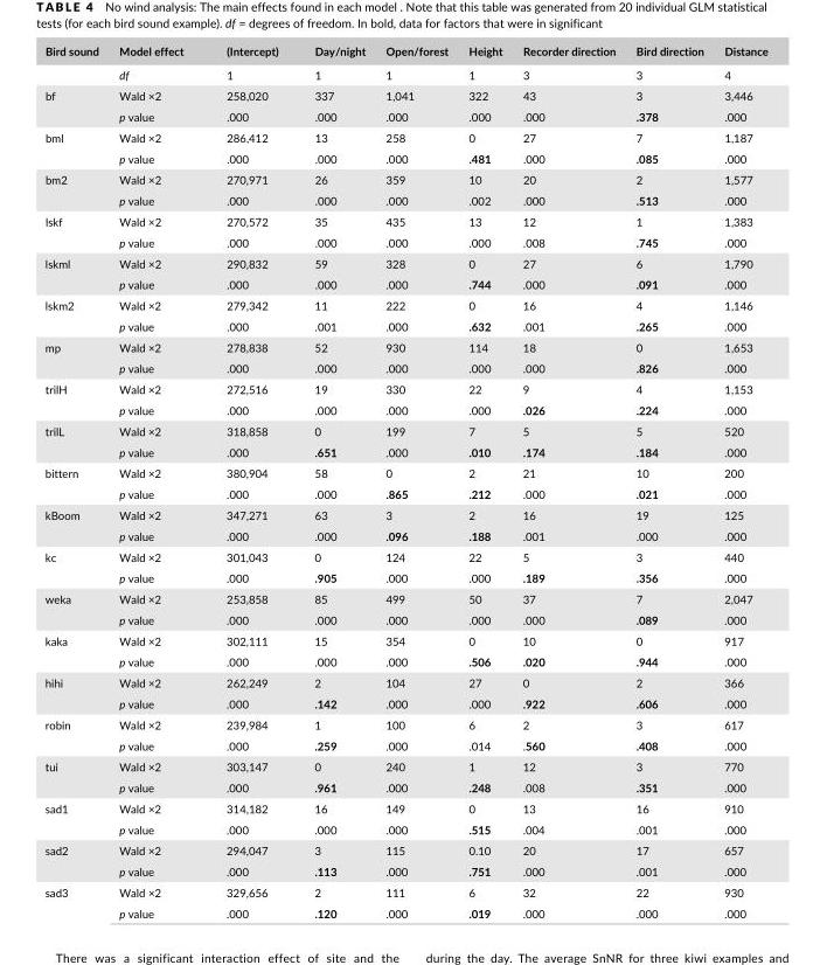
<table><thead><tr><td>Bird sound</td><td>Model effect</td><td>(Intercept)</td><td>Day/night</td><td>Open/forest</td><td>Height</td><td>Recorder direction</td><td>Bird direction</td><td>Distance</td></tr></thead><tbody><tr><td></td><td>df</td><td>1</td><td>1</td><td>1</td><td>1</td><td>3</td><td>3</td><td>4</td></tr><tr><td rowspan="2">bf</td><td>Wald ×2</td><td>258,020</td><td>337</td><td>1,041</td><td>322</td><td>43</td><td>3</td><td>3,446</td></tr><tr><td>p value</td><td>.000</td><td>.000</td><td>.000</td><td>.000</td><td>.000</td><td>.378</td><td>.000</td></tr><tr><td rowspan="2">bml</td><td>Wald ×2</td><td>286,412</td><td>13</td><td>258</td><td>0</td><td>27</td><td>7</td><td>1,187</td></tr><tr><td>p value</td><td>.000</td><td>.000</td><td>.000</td><td>.481</td><td>.000</td><td>.085</td><td>.000</td></tr><tr><td rowspan="2">bm2</td><td>Wald ×2</td><td>270,971</td><td>26</td><td>359</td><td>10</td><td>20</td><td>2</td><td>1,577</td></tr><tr><td>p value</td><td>.000</td><td>.000</td><td>.000</td><td>.002</td><td>.000</td><td>.513</td><td>.000</td></tr><tr><td rowspan="2">lskf</td><td>Wald ×2</td><td>270,572</td><td>35</td><td>435</td><td>13</td><td>12</td><td>1</td><td>1,383</td></tr><tr><td>p value</td><td>.000</td><td>.000</td><td>.000</td><td>.000</td><td>.008</td><td>.745</td><td>.000</td></tr><tr><td rowspan="2">lskml</td><td>Wald ×2</td><td>290,832</td><td>59</td><td>328</td><td>0</td><td>27</td><td>6</td><td>1,790</td></tr><tr><td>p value</td><td>.000</td><td>.000</td><td>.000</td><td>.744</td><td>.000</td><td>.091</td><td>.000</td></tr><tr><td rowspan="2">lskm2</td><td>Wald ×2</td><td>279,342</td><td>11</td><td>222</td><td>0</td><td>16</td><td>4</td><td>1,146</td></tr><tr><td>p value</td><td>.000</td><td>.001</td><td>.000</td><td>.632</td><td>.001</td><td>.265</td><td>.000</td></tr><tr><td rowspan="2">mp</td><td>Wald ×2</td><td>278,838</td><td>52</td><td>930</td><td>114</td><td>18</td><td>0</td><td>1,653</td></tr><tr><td>p value</td><td>.000</td><td>.000</td><td>.000</td><td>.000</td><td>.000</td><td>.826</td><td>.000</td></tr><tr><td rowspan="2">trilH</td><td>Wald ×2</td><td>272,516</td><td>19</td><td>330</td><td>22</td><td>9</td><td>4</td><td>1,153</td></tr><tr><td>p value</td><td>.000</td><td>.000</td><td>.000</td><td>.000</td><td>.026</td><td>.224</td><td>.000</td></tr><tr><td rowspan="2">trilL</td><td>Wald ×2</td><td>318,858</td><td>0</td><td>199</td><td>7</td><td>5</td><td>5</td><td>520</td></tr><tr><td>p value</td><td>.000</td><td>.651</td><td>.000</td><td>.010</td><td>.174</td><td>.184</td><td>.000</td></tr><tr><td rowspan="2">bittern</td><td>Wald ×2</td><td>380,904</td><td>58</td><td>0</td><td>2</td><td>21</td><td>10</td><td>200</td></tr><tr><td>p value</td><td>.000</td><td>.000</td><td>.865</td><td>.212</td><td>.000</td><td>.021</td><td>.000</td></tr><tr><td rowspan="2">kBoom</td><td>Wald ×2</td><td>347,271</td><td>63</td><td>3</td><td>2</td><td>16</td><td>19</td><td>125</td></tr><tr><td>p value</td><td>.000</td><td>.000</td><td>.096</td><td>.188</td><td>.001</td><td>.000</td><td>.000</td></tr><tr><td rowspan="2">kc</td><td>Wald ×2</td><td>301,043</td><td>0</td><td>124</td><td>22</td><td>5</td><td>3</td><td>440</td></tr><tr><td>p value</td><td>.000</td><td>.905</td><td>.000</td><td>.000</td><td>.189</td><td>.356</td><td>.000</td></tr><tr><td rowspan="2">weka</td><td>Wald ×2</td><td>253,858</td><td>85</td><td>499</td><td>50</td><td>37</td><td>7</td><td>2,047</td></tr><tr><td>p value</td><td>.000</td><td>.000</td><td>.000</td><td>.000</td><td>.000</td><td>.089</td><td>.000</td></tr><tr><td rowspan="2">kaka</td><td>Wald ×2</td><td>302,111</td><td>15</td><td>354</td><td>0</td><td>10</td><td>0</td><td>917</td></tr><tr><td>p value</td><td>.000</td><td>.000</td><td>.000</td><td>.506</td><td>.020</td><td>.944</td><td>.000</td></tr><tr><td rowspan="2">hihi</td><td>Wald ×2</td><td>262,249</td><td>2</td><td>104</td><td>27</td><td>0</td><td>2</td><td>366</td></tr><tr><td>p value</td><td>.000</td><td>.142</td><td>.000</td><td>.000</td><td>.922</td><td>.606</td><td>.000</td></tr><tr><td rowspan="2">robin</td><td>Wald ×2</td><td>239,984</td><td>1</td><td>100</td><td>6</td><td>2</td><td>3</td><td>617</td></tr><tr><td>p value</td><td>.000</td><td>.259</td><td>.000</td><td>.014</td><td>.560</td><td>.408</td><td>.000</td></tr><tr><td rowspan="2">tui</td><td>Wald ×2</td><td>303,147</td><td>0</td><td>240</td><td>1</td><td>12</td><td>3</td><td>770</td></tr><tr><td>p value</td><td>.000</td><td>.961</td><td>.000</td><td>.248</td><td>.008</td><td>.351</td><td>.000</td></tr><tr><td rowspan="2">sad1</td><td>Wald ×2</td><td>314,182</td><td>16</td><td>149</td><td>0</td><td>13</td><td>16</td><td>910</td></tr><tr><td>p value</td><td>.000</td><td>.000</td><td>.000</td><td>.515</td><td>.004</td><td>.001</td><td>.000</td></tr><tr><td rowspan="2">sad2</td><td>Wald ×2</td><td>294,047</td><td>3</td><td>115</td><td>0.10</td><td>20</td><td>17</td><td>657</td></tr><tr><td>p value</td><td>.000</td><td>.113</td><td>.000</td><td>.751</td><td>.000</td><td>.001</td><td>.000</td></tr><tr><td rowspan="2">sad3</td><td>Wald ×2</td><td>329,656</td><td>2</td><td>111</td><td>6</td><td>32</td><td>22</td><td>930</td></tr><tr><td>p value</td><td>.000</td><td>.120</td><td>.000</td><td>.019</td><td>.000</td><td>.000</td><td>.000</td></tr></tbody></table>